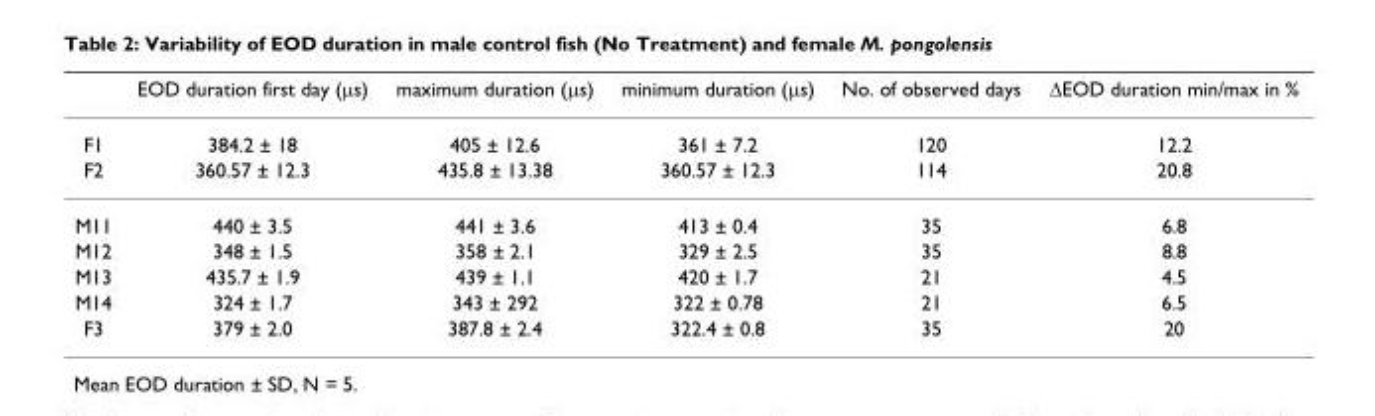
<table><thead><tr><td></td><td>EOD duration first day (μs)</td><td>maximum duration (μs)</td><td>minimum duration (μs)</td><td>No. of observed days</td><td>ΔEOD duration min/max in %</td></tr></thead><tbody><tr><td>F1</td><td>384.2 ± 18</td><td>405 ± 12.6</td><td>361 ± 7.2</td><td>120</td><td>12.2</td></tr><tr><td>F2</td><td>360.57 ± 12.3</td><td>435.8 ± 13.38</td><td>360.57 ± 12.3</td><td>114</td><td>20.8</td></tr><tr><td>M11</td><td>440 ± 3.5</td><td>441 ± 3.6</td><td>413 ± 0.4</td><td>35</td><td>6.8</td></tr><tr><td>M12</td><td>348 ± 1.5</td><td>358 ± 2.1</td><td>329 ± 2.5</td><td>35</td><td>8.8</td></tr><tr><td>M13</td><td>435.7 ± 1.9</td><td>439 ± 1.1</td><td>420 ± 1.7</td><td>21</td><td>4.5</td></tr><tr><td>M14</td><td>324 ± 1.7</td><td>343 ± 292</td><td>322 ± 0.78</td><td>21</td><td>6.5</td></tr><tr><td>F3</td><td>379 ± 2.0</td><td>387.8 ± 2.4</td><td>322.4 ± 0.8</td><td>35</td><td>20</td></tr></tbody></table>